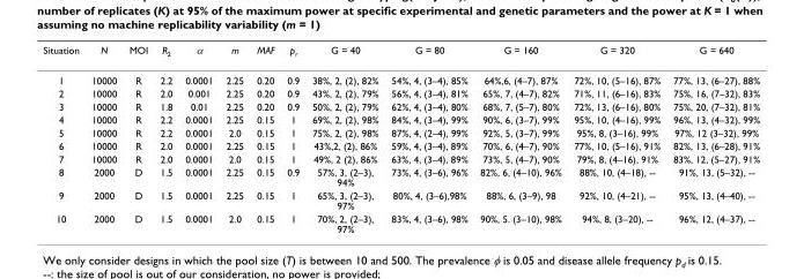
<table><thead><tr><td>Situation</td><td>N</td><td>MOI</td><td>R<sub>2</sub></td><td>α</td><td>m</td><td>MAF</td><td>p<sub>r</sub></td><td>G = 40</td><td>G = 80</td><td>G = 160</td><td>G = 320</td><td>G = 640</td></tr></thead><tbody><tr><td>1</td><td>10000</td><td>R</td><td>2.2</td><td>0.0001</td><td>2.25</td><td>0.20</td><td>0.9</td><td>38%, 2, (2), 82%</td><td>54%, 4, (3–4), 85%</td><td>64%,6, (4–7), 87%</td><td>72%, 10, (5–16), 87%</td><td>77%, 13, (6–27), 88%</td></tr><tr><td>2</td><td>10000</td><td>R</td><td>2.0</td><td>0.001</td><td>2.25</td><td>0.20</td><td>0.9</td><td>43%, 2, (2), 79%</td><td>56%, 4, (3–4), 81%</td><td>65%, 7, (4–7), 82%</td><td>71%, 11, (6–16), 83%</td><td>75%, 16, (7–32), 83%</td></tr><tr><td>3</td><td>10000</td><td>R</td><td>1.8</td><td>0.01</td><td>2.25</td><td>0.20</td><td>0.9</td><td>50%, 2, (2), 79%</td><td>62%, 4, (3–4), 80%</td><td>68%, 7, (5–7), 80%</td><td>72%, 13, (6–16), 80%</td><td>75%, 20, (7–32), 81%</td></tr><tr><td>4</td><td>10000</td><td>R</td><td>2.2</td><td>0.0001</td><td>2.25</td><td>0.15</td><td>1</td><td>69%, 2, (2), 98%</td><td>84%, 4, (3–4), 99%</td><td>90%, 6, (3–7), 99%</td><td>95%, 10, (4–16), 99%</td><td>96%, 13, (4–32), 99%</td></tr><tr><td>5</td><td>10000</td><td>R</td><td>2.2</td><td>0.0001</td><td>2.0</td><td>0.15</td><td>1</td><td>75%, 2, (2), 98%</td><td>87%, 4, (2–4), 99%</td><td>92%, 5, (3–7), 99%</td><td>95%, 8, (3–16), 99%</td><td>97%, 12 (3–32), 99%</td></tr><tr><td>6</td><td>10000</td><td>R</td><td>2.0</td><td>0.0001</td><td>2.25</td><td>0.15</td><td>1</td><td>43%,2, (2), 86%</td><td>59%, 4, (3–4), 89%</td><td>70%, 6, (4–7), 90%</td><td>77%, 10, (5–16), 91%</td><td>82%, 13, (6–28), 91%</td></tr><tr><td>7</td><td>10000</td><td>R</td><td>2.0</td><td>0.0001</td><td>2.0</td><td>0.15</td><td>1</td><td>49%, 2 (2), 86%</td><td>63%, 4, (3–4), 89%</td><td>73%, 5, (4–7), 90%</td><td>79%, 8, (4–16), 91%</td><td>83%, 12, (5–27), 91%</td></tr><tr><td>8</td><td>2000</td><td>D</td><td>1.5</td><td>0.0001</td><td>2.25</td><td>0.15</td><td>0.9</td><td>57%, 3, (2–3), 94%</td><td>73%, 4, (3–6), 96%</td><td>82%, 6, (4–10), 96%</td><td>88%, 10, (4–18), --</td><td>91%, 13, (5–32), --</td></tr><tr><td>9</td><td>2000</td><td>D</td><td>1.5</td><td>0.0001</td><td>2.25</td><td>0.15</td><td>1</td><td>65%, 3, (2–3), 97%</td><td>80%, 4, (3–6),98%</td><td>88%, 6, (3–9), 98</td><td>92%, 10, (4–21), --</td><td>95%, 13, (4–40), --</td></tr><tr><td>10</td><td>2000</td><td>D</td><td>1.5</td><td>0.0001</td><td>2.0</td><td>0.15</td><td>1</td><td>70%, 2, (2–3), 97%</td><td>83%, 4, (3–6), 98%</td><td>90%, 5. (3–10), 98%</td><td>94%, 8, (3–20), --</td><td>96%, 12, (4–37), --</td></tr></tbody></table>